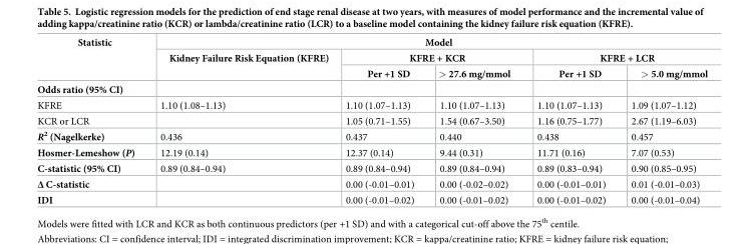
<table><thead><tr><td rowspan="3">Statistic</td><td colspan="5">Model</td></tr><tr><td rowspan="2">Kidney Failure Risk Equation (KFRE)</td><td colspan="2">KFRE + KCR</td><td colspan="2">KFRE + LCR</td></tr><tr><td>Per +1 SD</td><td>&gt; 27.6 mg/mmol</td><td>Per +1 SD</td><td>&gt; 5.0 mg/mmol</td></tr></thead><tbody><tr><td colspan="6">Odds ratio (95% CI)</td></tr><tr><td>KFRE</td><td>1.10 (1.08–1.13)</td><td>1.10 (1.07–1.13)</td><td>1.10 (1.07–1.13)</td><td>1.10 (1.07–1.13)</td><td>1.09 (1.07–1.12)</td></tr><tr><td>KCR or LCR</td><td></td><td>1.05 (0.71–1.55)</td><td>1.54 (0.67–3.50)</td><td>1.16 (0.75–1.77)</td><td>2.67 (1.19–6.03)</td></tr><tr><td>R<sup>2</sup> (Nagelkerke)</td><td>0.436</td><td>0.437</td><td>0.440</td><td>0.438</td><td>0.457</td></tr><tr><td>Hosmer-Lemeshow (P)</td><td>12.19 (0.14)</td><td>12.37 (0.14)</td><td>9.44 (0.31)</td><td>11.71 (0.16)</td><td>7.07 (0.53)</td></tr><tr><td>C-statistic (95% CI)</td><td>0.89 (0.84–0.94)</td><td>0.89 (0.84–0.94)</td><td>0.89 (0.84–0.94)</td><td>0.89 (0.83–0.94)</td><td>0.90 (0.85–0.95)</td></tr><tr><td>Δ C-statistic</td><td></td><td>0.00 (-0.01–0.01)</td><td>0.00 (-0.02–0.02)</td><td>0.00 (-0.01–0.01)</td><td>0.01 (-0.01–0.03)</td></tr><tr><td>IDI</td><td></td><td>0.00 (-0.01–0.02)</td><td>0.00 (-0.01–0.02)</td><td>0.00 (-0.01–0.02)</td><td>0.00 (-0.01–0.04)</td></tr></tbody></table>